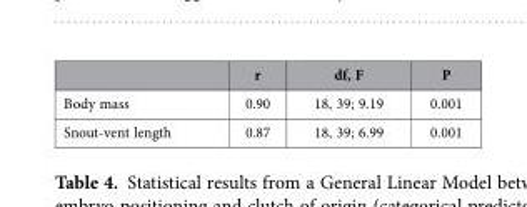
<table><thead><tr><td></td><td>r</td><td>df, F</td><td>P</td></tr></thead><tbody><tr><td>Body mass</td><td>0.90</td><td>18, 39; 9.19</td><td>0.001</td></tr><tr><td>Snout-vent length</td><td>0.87</td><td>18, 39; 6.99</td><td>0.001</td></tr></tbody></table>